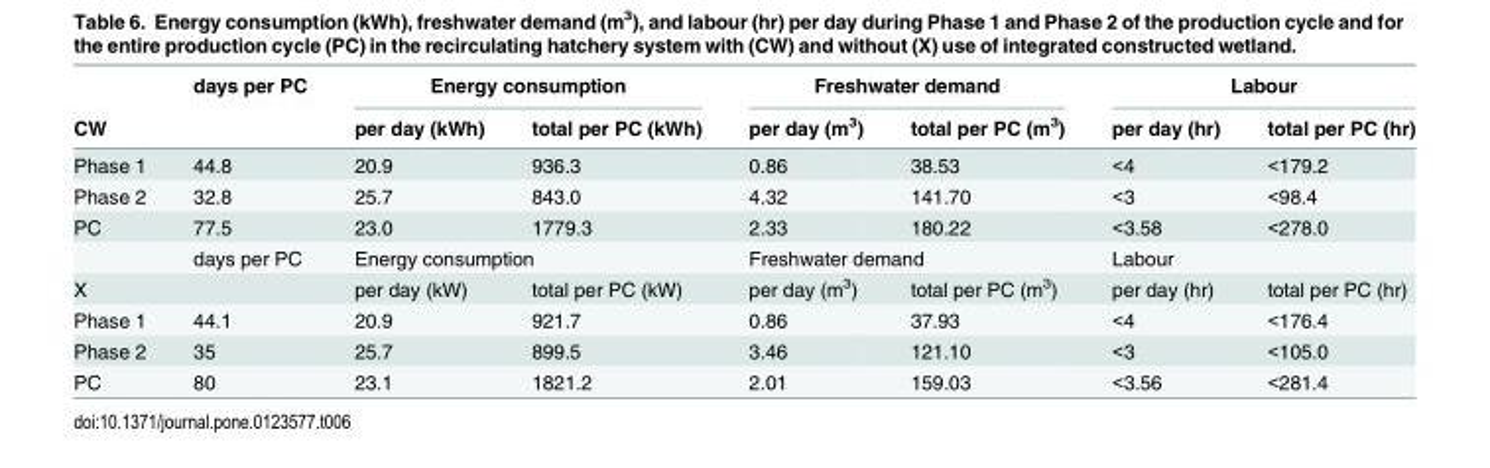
<table><thead><tr><td rowspan="2">CW</td><td rowspan="2">days per PC</td><td colspan="2">Energy consumption</td><td colspan="2">Freshwater demand</td><td colspan="2">Labour</td></tr><tr><td>per day (kWh)</td><td>total per PC (kWh)</td><td>per day (m<sup>3</sup>)</td><td>total per PC (m<sup>3</sup>)</td><td>per day (hr)</td><td>total per PC (hr)</td></tr></thead><tbody><tr><td>Phase 1</td><td>44.8</td><td>20.9</td><td>936.3</td><td>0.86</td><td>38.53</td><td>&lt;4</td><td>&lt;179.2</td></tr><tr><td>Phase 2</td><td>32.8</td><td>25.7</td><td>843.0</td><td>4.32</td><td>141.70</td><td>&lt;3</td><td>&lt;98.4</td></tr><tr><td rowspan="2">PC</td><td>77.5</td><td>23.0</td><td>1779.3</td><td>2.33</td><td>180.22</td><td>&lt;3.58</td><td>&lt;278.0</td></tr><tr><td>days per PC</td><td colspan="2">Energy consumption</td><td colspan="2">Freshwater demand</td><td colspan="2">Labour</td></tr><tr><td>X</td><td></td><td>per day (kW)</td><td>total per PC (kW)</td><td>per day (m<sup>3</sup>)</td><td>total per PC (m<sup>3</sup>)</td><td>per day (hr)</td><td>total per PC (hr)</td></tr><tr><td>Phase 1</td><td>44.1</td><td>20.9</td><td>921.7</td><td>0.86</td><td>37.93</td><td>&lt;4</td><td>&lt;176.4</td></tr><tr><td>Phase 2</td><td>35</td><td>25.7</td><td>899.5</td><td>3.46</td><td>121.10</td><td>&lt;3</td><td>&lt;105.0</td></tr><tr><td>PC</td><td>80</td><td>23.1</td><td>1821.2</td><td>2.01</td><td>159.03</td><td>&lt;3.56</td><td>&lt;281.4</td></tr></tbody></table>